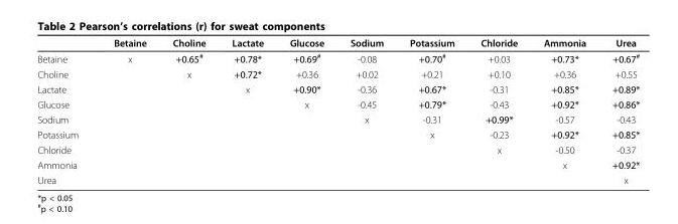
<table><thead><tr><td></td><td>Betaine</td><td>Choline</td><td>Lactate</td><td>Glucose</td><td>Sodium</td><td>Potassium</td><td>Chloride</td><td>Ammonia</td><td>Urea</td></tr></thead><tbody><tr><td>Betaine</td><td>x</td><td>+0.65<sup>#</sup></td><td>+0.78*</td><td>+0.69<sup>#</sup></td><td>-0.08</td><td>+0.70<sup>#</sup></td><td>+0.03</td><td>+0.73*</td><td>+0.67<sup>#</sup></td></tr><tr><td>Choline</td><td></td><td>x</td><td>+0.72*</td><td>+0.36</td><td>+0.02</td><td>+0.21</td><td>+0.10</td><td>+0.36</td><td>+0.55</td></tr><tr><td>Lactate</td><td></td><td></td><td>x</td><td>+0.90*</td><td>-0.36</td><td>+0.67*</td><td>-0.31</td><td>+0.85*</td><td>+0.89*</td></tr><tr><td>Glucose</td><td></td><td></td><td></td><td>x</td><td>-0.45</td><td>+0.79*</td><td>-0.43</td><td>+0.92*</td><td>+0.86*</td></tr><tr><td>Sodium</td><td></td><td></td><td></td><td></td><td>x</td><td>-0.31</td><td>+0.99*</td><td>-0.57</td><td>-0.43</td></tr><tr><td>Potassium</td><td></td><td></td><td></td><td></td><td></td><td>x</td><td>-0.23</td><td>+0.92*</td><td>+0.85*</td></tr><tr><td>Chloride</td><td></td><td></td><td></td><td></td><td></td><td></td><td>x</td><td>-0.50</td><td>-0.37</td></tr><tr><td>Ammonia</td><td></td><td></td><td></td><td></td><td></td><td></td><td></td><td>x</td><td>+0.92*</td></tr><tr><td>Urea</td><td></td><td></td><td></td><td></td><td></td><td></td><td></td><td></td><td>x</td></tr></tbody></table>